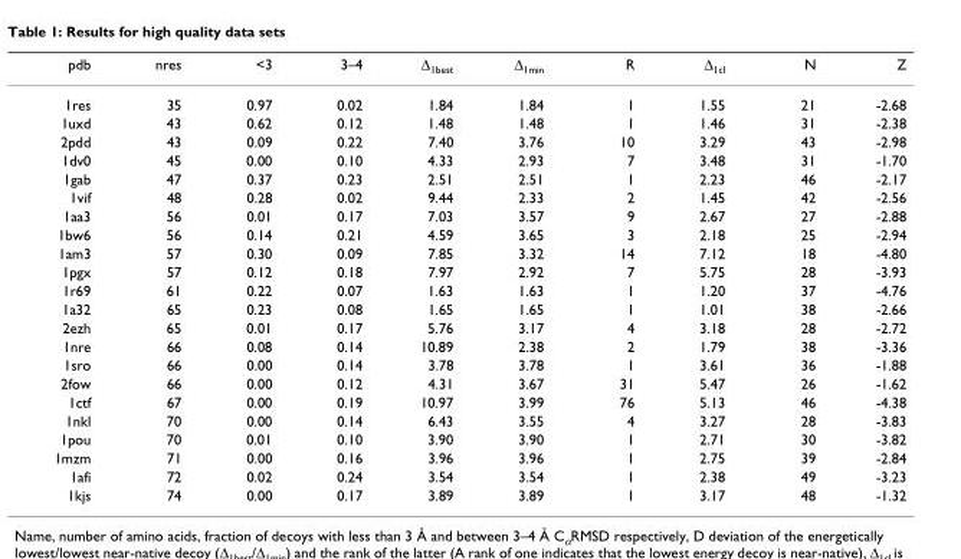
<table><thead><tr><td>pdb</td><td>nres</td><td>&lt;3</td><td>3–4</td><td>Δ1best</td><td>Δ1min</td><td>R</td><td>Δ1cl</td><td>N</td><td>Z</td></tr></thead><tbody><tr><td>1res</td><td>35</td><td>0.97</td><td>0.02</td><td>1.84</td><td>1.84</td><td>1</td><td>1.55</td><td>21</td><td>-2.68</td></tr><tr><td>1uxd</td><td>43</td><td>0.62</td><td>0.12</td><td>1.48</td><td>1.48</td><td>1</td><td>1.46</td><td>31</td><td>-2.38</td></tr><tr><td>2pdd</td><td>43</td><td>0.09</td><td>0.22</td><td>7.40</td><td>3.76</td><td>10</td><td>3.29</td><td>43</td><td>-2.98</td></tr><tr><td>1dv0</td><td>45</td><td>0.00</td><td>0.10</td><td>4.33</td><td>2.93</td><td>7</td><td>3.48</td><td>31</td><td>-1.70</td></tr><tr><td>1gab</td><td>47</td><td>0.37</td><td>0.23</td><td>2.51</td><td>2.51</td><td>1</td><td>2.23</td><td>46</td><td>-2.17</td></tr><tr><td>1vif</td><td>48</td><td>0.28</td><td>0.02</td><td>9.44</td><td>2.33</td><td>2</td><td>1.45</td><td>42</td><td>-2.56</td></tr><tr><td>1aa3</td><td>56</td><td>0.01</td><td>0.17</td><td>7.03</td><td>3.57</td><td>9</td><td>2.67</td><td>27</td><td>-2.88</td></tr><tr><td>1bw6</td><td>56</td><td>0.14</td><td>0.21</td><td>4.59</td><td>3.65</td><td>3</td><td>2.18</td><td>25</td><td>-2.94</td></tr><tr><td>1am3</td><td>57</td><td>0.30</td><td>0.09</td><td>7.85</td><td>3.32</td><td>14</td><td>7.12</td><td>18</td><td>-4.80</td></tr><tr><td>1pgx</td><td>57</td><td>0.12</td><td>0.18</td><td>7.97</td><td>2.92</td><td>7</td><td>5.75</td><td>28</td><td>-3.93</td></tr><tr><td>1r69</td><td>61</td><td>0.22</td><td>0.07</td><td>1.63</td><td>1.63</td><td>1</td><td>1.20</td><td>37</td><td>-4.76</td></tr><tr><td>1a32</td><td>65</td><td>0.23</td><td>0.08</td><td>1.65</td><td>1.65</td><td>1</td><td>1.01</td><td>38</td><td>-2.66</td></tr><tr><td>2ezh</td><td>65</td><td>0.01</td><td>0.17</td><td>5.76</td><td>3.17</td><td>4</td><td>3.18</td><td>28</td><td>-2.72</td></tr><tr><td>1nre</td><td>66</td><td>0.08</td><td>0.14</td><td>10.89</td><td>2.38</td><td>2</td><td>1.79</td><td>38</td><td>-3.36</td></tr><tr><td>1sro</td><td>66</td><td>0.00</td><td>0.14</td><td>3.78</td><td>3.78</td><td>1</td><td>3.61</td><td>36</td><td>-1.88</td></tr><tr><td>2fow</td><td>66</td><td>0.00</td><td>0.12</td><td>4.31</td><td>3.67</td><td>31</td><td>5.47</td><td>26</td><td>-1.62</td></tr><tr><td>1ctf</td><td>67</td><td>0.00</td><td>0.19</td><td>10.97</td><td>3.99</td><td>76</td><td>5.13</td><td>46</td><td>-4.38</td></tr><tr><td>1nkl</td><td>70</td><td>0.00</td><td>0.14</td><td>6.43</td><td>3.55</td><td>4</td><td>3.27</td><td>28</td><td>-3.83</td></tr><tr><td>1pou</td><td>70</td><td>0.01</td><td>0.10</td><td>3.90</td><td>3.90</td><td>1</td><td>2.71</td><td>30</td><td>-3.82</td></tr><tr><td>1mzm</td><td>71</td><td>0.00</td><td>0.16</td><td>3.96</td><td>3.96</td><td>1</td><td>2.75</td><td>39</td><td>-2.84</td></tr><tr><td>1afi</td><td>72</td><td>0.02</td><td>0.24</td><td>3.54</td><td>3.54</td><td>1</td><td>2.38</td><td>49</td><td>-3.23</td></tr><tr><td>1kjs</td><td>74</td><td>0.00</td><td>0.17</td><td>3.89</td><td>3.89</td><td>1</td><td>3.17</td><td>48</td><td>-1.32</td></tr></tbody></table>